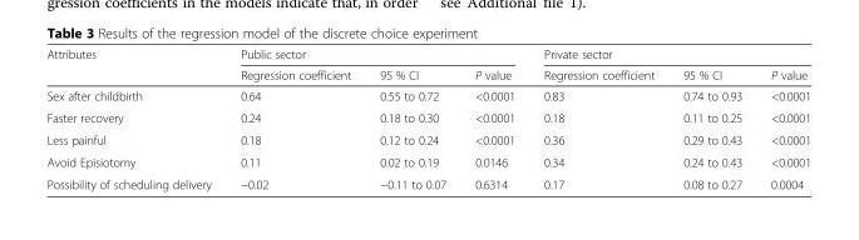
<table><thead><tr><td rowspan="2">Attributes</td><td colspan="3">Public sector</td><td colspan="3">Private sector</td></tr><tr><td>Regression coefficient</td><td>95 % CI</td><td>P value</td><td>Regression coefficient</td><td>95 % CI</td><td>P value</td></tr></thead><tbody><tr><td>Sex after childbirth</td><td>0.64</td><td>0.55 to 0.72</td><td>&lt;0.0001</td><td>0.83</td><td>0.74 to 0.93</td><td>&lt;0.0001</td></tr><tr><td>Faster recovery</td><td>0.24</td><td>0.18 to 0.30</td><td>&lt;0.0001</td><td>0.18</td><td>0.11 to 0.25</td><td>&lt;0.0001</td></tr><tr><td>Less painful</td><td>0.18</td><td>0.12 to 0.24</td><td>&lt;0.0001</td><td>0.36</td><td>0.29 to 0.43</td><td>&lt;0.0001</td></tr><tr><td>Avoid Episiotomy</td><td>0.11</td><td>0.02 to 0.19</td><td>0.0146</td><td>0.34</td><td>0.24 to 0.43</td><td>&lt;0.0001</td></tr><tr><td>Possibility of scheduling delivery</td><td>−0.02</td><td>−0.11 to 0.07</td><td>0.6314</td><td>0.17</td><td>0.08 to 0.27</td><td>0.0004</td></tr></tbody></table>